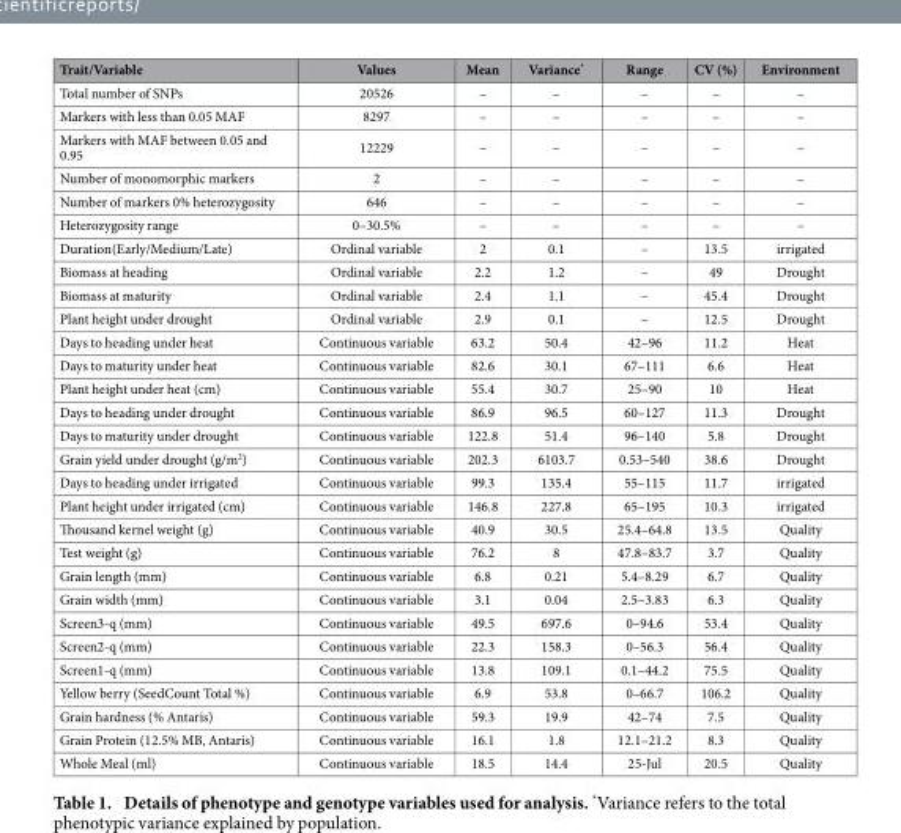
<table><thead><tr><td>Trait/Variable</td><td>Values</td><td>Mean</td><td>Variance*</td><td>Range</td><td>CV (%)</td><td>Environment</td></tr></thead><tbody><tr><td>Total number of SNPs</td><td>20526</td><td>–</td><td>–</td><td>–</td><td>–</td><td>–</td></tr><tr><td>Markers with less than 0.05 MAF</td><td>8297</td><td>–</td><td>–</td><td>–</td><td>–</td><td>–</td></tr><tr><td>Markers with MAF between 0.05 and 0.95</td><td>12229</td><td>–</td><td>–</td><td>–</td><td>–</td><td>–</td></tr><tr><td>Number of monomorphic markers</td><td>2</td><td>–</td><td>–</td><td>–</td><td>–</td><td>–</td></tr><tr><td>Number of markers 0% heterozygosity</td><td>646</td><td>–</td><td>–</td><td>–</td><td>–</td><td>–</td></tr><tr><td>Heterozygosity range</td><td>0–30.5%</td><td>–</td><td>–</td><td>–</td><td>–</td><td>–</td></tr><tr><td>Duration(Early/Medium/Late)</td><td>Ordinal variable</td><td>2</td><td>0.1</td><td>–</td><td>13.5</td><td>irrigated</td></tr><tr><td>Biomass at heading</td><td>Ordinal variable</td><td>2.2</td><td>1.2</td><td>–</td><td>49</td><td>Drought</td></tr><tr><td>Biomass at maturity</td><td>Ordinal variable</td><td>2.4</td><td>1.1</td><td>–</td><td>45.4</td><td>Drought</td></tr><tr><td>Plant height under drought</td><td>Ordinal variable</td><td>2.9</td><td>0.1</td><td>–</td><td>12.5</td><td>Drought</td></tr><tr><td>Days to heading under heat</td><td>Continuous variable</td><td>63.2</td><td>50.4</td><td>42–96</td><td>11.2</td><td>Heat</td></tr><tr><td>Days to maturity under heat</td><td>Continuous variable</td><td>82.6</td><td>30.1</td><td>67–111</td><td>6.6</td><td>Heat</td></tr><tr><td>Plant height under heat (cm)</td><td>Continuous variable</td><td>55.4</td><td>30.7</td><td>25–90</td><td>10</td><td>Heat</td></tr><tr><td>Days to heading under drought</td><td>Continuous variable</td><td>86.9</td><td>96.5</td><td>60–127</td><td>11.3</td><td>Drought</td></tr><tr><td>Days to maturity under drought</td><td>Continuous variable</td><td>122.8</td><td>51.4</td><td>96–140</td><td>5.8</td><td>Drought</td></tr><tr><td>Grain yield under drought (g/m<sup>2</sup>)</td><td>Continuous variable</td><td>202.3</td><td>6103.7</td><td>0.53–540</td><td>38.6</td><td>Drought</td></tr><tr><td>Days to heading under irrigated</td><td>Continuous variable</td><td>99.3</td><td>135.4</td><td>55–115</td><td>11.7</td><td>irrigated</td></tr><tr><td>Plant height under irrigated (cm)</td><td>Continuous variable</td><td>146.8</td><td>227.8</td><td>65–195</td><td>10.3</td><td>irrigated</td></tr><tr><td>Thousand kernel weight (g)</td><td>Continuous variable</td><td>40.9</td><td>30.5</td><td>25.4–64.8</td><td>13.5</td><td>Quality</td></tr><tr><td>Test weight (g)</td><td>Continuous variable</td><td>76.2</td><td>8</td><td>47.8–83.7</td><td>3.7</td><td>Quality</td></tr><tr><td>Grain length (mm)</td><td>Continuous variable</td><td>6.8</td><td>0.21</td><td>5.4–8.29</td><td>6.7</td><td>Quality</td></tr><tr><td>Grain width (mm)</td><td>Continuous variable</td><td>3.1</td><td>0.04</td><td>2.5–3.83</td><td>6.3</td><td>Quality</td></tr><tr><td>Screen3-q (mm)</td><td>Continuous variable</td><td>49.5</td><td>697.6</td><td>0–94.6</td><td>53.4</td><td>Quality</td></tr><tr><td>Screen2-q (mm)</td><td>Continuous variable</td><td>22.3</td><td>158.3</td><td>0–56.3</td><td>56.4</td><td>Quality</td></tr><tr><td>Screen1-q (mm)</td><td>Continuous variable</td><td>13.8</td><td>109.1</td><td>0.1–44.2</td><td>75.5</td><td>Quality</td></tr><tr><td>Yellow berry (SeedCount Total %)</td><td>Continuous variable</td><td>6.9</td><td>53.8</td><td>0–66.7</td><td>106.2</td><td>Quality</td></tr><tr><td>Grain hardness (% Antaris)</td><td>Continuous variable</td><td>59.3</td><td>19.9</td><td>42–74</td><td>7.5</td><td>Quality</td></tr><tr><td>Grain Protein (12.5% MB, Antaris)</td><td>Continuous variable</td><td>16.1</td><td>1.8</td><td>12.1–21.2</td><td>8.3</td><td>Quality</td></tr><tr><td>Whole Meal (ml)</td><td>Continuous variable</td><td>18.5</td><td>14.4</td><td>25-Jul</td><td>20.5</td><td>Quality</td></tr></tbody></table>